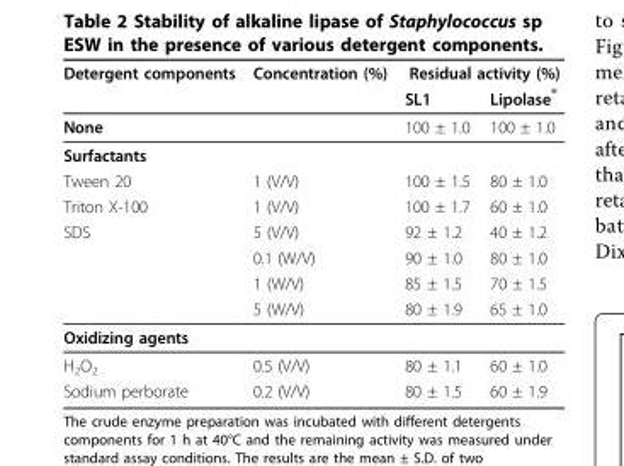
<table><thead><tr><td rowspan="2">Detergent components</td><td rowspan="2">Concentration (%)</td><td colspan="2">Residual activity (%)</td></tr><tr><td>SL1</td><td>Lipolase <sup>®</sup></td></tr></thead><tbody><tr><td>None</td><td></td><td>100 ± 1.0</td><td>100 ± 1.0</td></tr><tr><td colspan="4">Surfactants</td></tr><tr><td>Tween 20</td><td>1 (V/V)</td><td>100 ± 1.5</td><td>80 ± 1.0</td></tr><tr><td>Triton X-100</td><td>1 (V/V)</td><td>100 ± 1.7</td><td>60 ± 1.0</td></tr><tr><td rowspan="4">SDS</td><td>5 (V/V)</td><td>92 ± 1.2</td><td>40 ± 1.2</td></tr><tr><td>0.1 (W/V)</td><td>90 ± 1.0</td><td>80 ± 1.0</td></tr><tr><td>1 (W/V)</td><td>85 ± 1.5</td><td>70 ± 1.5</td></tr><tr><td>5 (W/V)</td><td>80 ± 1.9</td><td>65 ± 1.0</td></tr><tr><td colspan="4">Oxidizing agents</td></tr><tr><td>H<sub>2</sub>O<sub>2</sub></td><td>0.5 (V/V)</td><td>80 ± 1.1</td><td>60 ± 1.0</td></tr><tr><td>Sodium perborate</td><td>0.2 (V/V)</td><td>80 ± 1.5</td><td>60 ± 1.9</td></tr></tbody></table>